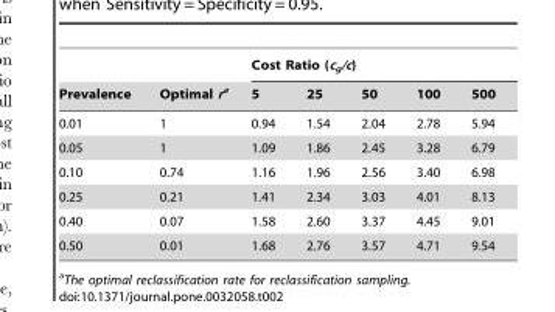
<table><thead><tr><td rowspan="2">Prevalence</td><td rowspan="2">Optimal ra</td><td colspan="5">Cost Ratio (c<sub>g</sub>/c)</td></tr><tr><td>5</td><td>25</td><td>50</td><td>100</td><td>500</td></tr></thead><tbody><tr><td>0.01</td><td>1</td><td>0.94</td><td>1.54</td><td>2.04</td><td>2.78</td><td>5.94</td></tr><tr><td>0.05</td><td>1</td><td>1.09</td><td>1.86</td><td>2.45</td><td>3.28</td><td>6.79</td></tr><tr><td>0.10</td><td>0.74</td><td>1.16</td><td>1.96</td><td>2.56</td><td>3.40</td><td>6.98</td></tr><tr><td>0.25</td><td>0.21</td><td>1.41</td><td>2.34</td><td>3.03</td><td>4.01</td><td>8.13</td></tr><tr><td>0.40</td><td>0.07</td><td>1.58</td><td>2.60</td><td>3.37</td><td>4.45</td><td>9.01</td></tr><tr><td>0.50</td><td>0.01</td><td>1.68</td><td>2.76</td><td>3.57</td><td>4.71</td><td>9.54</td></tr></tbody></table>